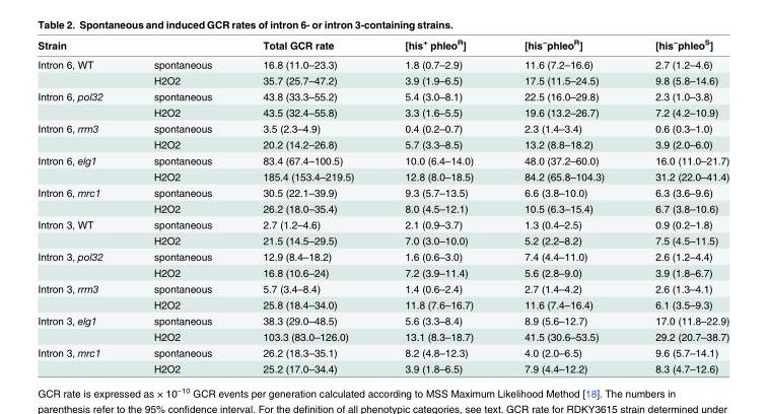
<table><thead><tr><td>Strain</td><td></td><td>Total GCR rate</td><td>[his<sup>+</sup> phleo<sup>R</sup>]</td><td>[his<sup>−</sup>phleo<sup>R</sup>]</td><td>[his<sup>−</sup>phleo<sup>S</sup>]</td></tr></thead><tbody><tr><td rowspan="2">Intron 6, WT</td><td>spontaneous</td><td>16.8 (11.0–23.3)</td><td>1.8 (0.7–2.9)</td><td>11.6 (7.2–16.6)</td><td>2.7 (1.2–4.6)</td></tr><tr><td>H2O2</td><td>35.7 (25.7–47.2)</td><td>3.9 (1.9–6.5)</td><td>17.5 (11.5–24.5)</td><td>9.8 (5.8–14.6)</td></tr><tr><td rowspan="2">Intron 6, pol32</td><td>spontaneous</td><td>43.8 (33.3–55.2)</td><td>5.4 (3.0–8.1)</td><td>22.5 (16.0–29.8)</td><td>2.3 (1.0–3.8)</td></tr><tr><td>H2O2</td><td>43.5 (32.4–55.8)</td><td>3.3 (1.6–5.5)</td><td>19.6 (13.2–26.7)</td><td>7.2 (4.2–10.9)</td></tr><tr><td rowspan="2">Intron 6, rrm3</td><td>spontaneous</td><td>3.5 (2.3–4.9)</td><td>0.4 (0.2–0.7)</td><td>2.3 (1.4–3.4)</td><td>0.6 (0.3–1.0)</td></tr><tr><td>H2O2</td><td>20.2 (14.2–26.8)</td><td>5.7 (3.3–8.5)</td><td>13.2 (8.8–18.2)</td><td>3.9 (2.0–6.0)</td></tr><tr><td rowspan="2">Intron 6, elg1</td><td>spontaneous</td><td>83.4 (67.4–100.5)</td><td>10.0 (6.4–14.0)</td><td>48.0 (37.2–60.0)</td><td>16.0 (11.0–21.7)</td></tr><tr><td>H2O2</td><td>185.4 (153.4–219.5)</td><td>12.8 (8.0–18.5)</td><td>84.2 (65.8–104.3)</td><td>31.2 (22.0–41.4)</td></tr><tr><td rowspan="2">Intron 6, mrc1</td><td>spontaneous</td><td>30.5 (22.1–39.9)</td><td>9.3 (5.7–13.5)</td><td>6.6 (3.8–10.0)</td><td>6.3 (3.6–9.6)</td></tr><tr><td>H2O2</td><td>26.2 (18.0–35.4)</td><td>8.0 (4.5–12.1)</td><td>10.5 (6.3–15.4)</td><td>6.7 (3.8–10.6)</td></tr><tr><td rowspan="2">Intron 3, WT</td><td>spontaneous</td><td>2.7 (1.2–4.6)</td><td>2.1 (0.9–3.7)</td><td>1.3 (0.4–2.5)</td><td>0.9 (0.2–1.8)</td></tr><tr><td>H2O2</td><td>21.5 (14.5–29.5)</td><td>7.0 (3.0–10.0)</td><td>5.2 (2.2–8.2)</td><td>7.5 (4.5–11.5)</td></tr><tr><td rowspan="2">Intron 3, pol32</td><td>spontaneous</td><td>12.9 (8.4–18.2)</td><td>1.6 (0.6–3.0)</td><td>7.4 (4.4–11.0)</td><td>2.6 (1.2–4.4)</td></tr><tr><td>H2O2</td><td>16.8 (10.6–24)</td><td>7.2 (3.9–11.4)</td><td>5.6 (2.8–9.0)</td><td>3.9 (1.8–6.7)</td></tr><tr><td rowspan="2">Intron 3, rrm3</td><td>spontaneous</td><td>5.7 (3.4–8.4)</td><td>1.4 (0.6–2.4)</td><td>2.7 (1.4–4.2)</td><td>2.6 (1.3–4.1)</td></tr><tr><td>H2O2</td><td>25.8 (18.4–34.0)</td><td>11.8 (7.6–16.7)</td><td>11.6 (7.4–16.4)</td><td>6.1 (3.5–9.3)</td></tr><tr><td rowspan="2">Intron 3, elg1</td><td>spontaneous</td><td>38.3 (29.0–48.5)</td><td>5.6 (3.3–8.4)</td><td>8.9 (5.6–12.7)</td><td>17.0 (11.8–22.9)</td></tr><tr><td>H2O2</td><td>103.3 (83.0–126.0)</td><td>13.1 (8.3–18.7)</td><td>41.5 (30.6–53.5)</td><td>29.2 (20.7–38.7)</td></tr><tr><td rowspan="2">Intron 3, mrc1</td><td>spontaneous</td><td>26.2 (18.3–35.1)</td><td>8.2 (4.8–12.3)</td><td>4.0 (2.0–6.5)</td><td>9.6 (5.7–14.1)</td></tr><tr><td>H2O2</td><td>25.2 (17.0–34.4)</td><td>3.9 (1.8–6.5)</td><td>7.9 (4.4–12.2)</td><td>8.3 (4.7–12.6)</td></tr></tbody></table>